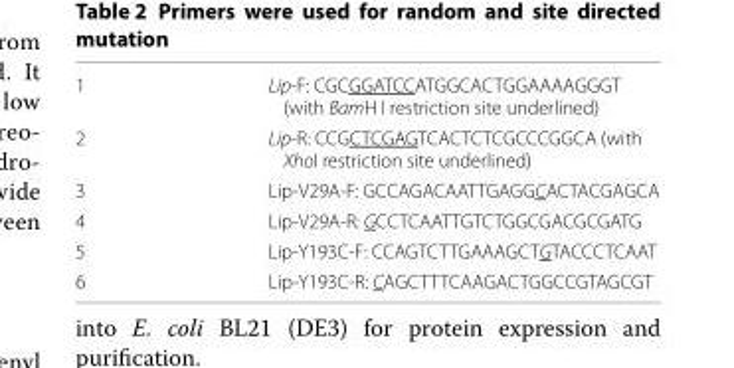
<table><tbody><tr><td>1</td><td>Lip-F: CGC GGA TCC ATG GCA CTG GAA AAG GGT (with BamH I restriction site underlined)</td></tr><tr><td>2</td><td>Lip-R: CCG CTC GAG TCA CTC TCG CCC GGCA (with XhoI restriction site underlined)</td></tr><tr><td>3</td><td>Lip-V29A-F: GCC AGA CAA TTG AGG CACT ACG AGCA</td></tr><tr><td>4</td><td>Lip-V29A-R: GCCT CAA TTG TCT GGC GAC GCG ATG</td></tr><tr><td>5</td><td>Lip-Y193C-F: CCA GTC TTG AAA GCT GTAC CCT CAAT</td></tr><tr><td>6</td><td>Lip-Y193C-R: CAGC TTT CAA GAC TGG CCG TAG CGT</td></tr></tbody></table>